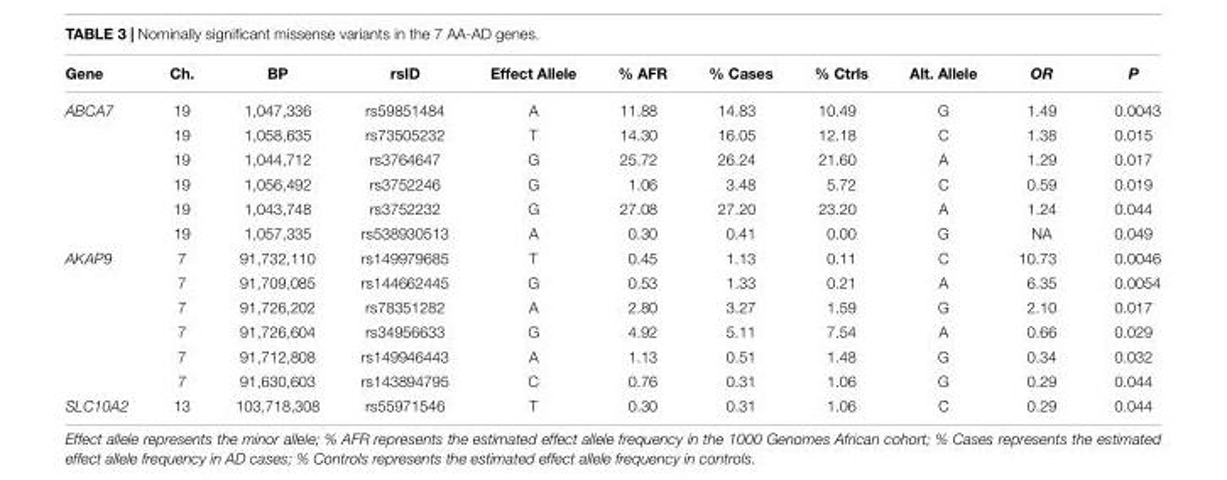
<table><thead><tr><td>Gene</td><td>Ch.</td><td>BP</td><td>rsID</td><td>Effect Allele</td><td>% AFR</td><td>% Cases</td><td>% Ctrls</td><td>Alt. Allele</td><td>OR</td><td>P</td></tr></thead><tbody><tr><td rowspan="6">ABCA7</td><td>19</td><td>1,047,336</td><td>rs59851484</td><td>A</td><td>11.88</td><td>14.83</td><td>10.49</td><td>G</td><td>1.49</td><td>0.0043</td></tr><tr><td>19</td><td>1,058,635</td><td>rs73505232</td><td>T</td><td>14.30</td><td>16.05</td><td>12.18</td><td>C</td><td>1.38</td><td>0.015</td></tr><tr><td>19</td><td>1,044,712</td><td>rs3764647</td><td>G</td><td>25.72</td><td>26.24</td><td>21.60</td><td>A</td><td>1.29</td><td>0.017</td></tr><tr><td>19</td><td>1,056,492</td><td>rs3752246</td><td>G</td><td>1.06</td><td>3.48</td><td>5.72</td><td>C</td><td>0.59</td><td>0.019</td></tr><tr><td>19</td><td>1,043,748</td><td>rs3752232</td><td>G</td><td>27.08</td><td>27.20</td><td>23.20</td><td>A</td><td>1.24</td><td>0.044</td></tr><tr><td>19</td><td>1,057,335</td><td>rs538930513</td><td>A</td><td>0.30</td><td>0.41</td><td>0.00</td><td>G</td><td>NA</td><td>0.049</td></tr><tr><td rowspan="6">AKAP9</td><td>7</td><td>91,732,110</td><td>rs149979685</td><td>T</td><td>0.45</td><td>1.13</td><td>0.11</td><td>C</td><td>10.73</td><td>0.0046</td></tr><tr><td>7</td><td>91,709,085</td><td>rs144662445</td><td>G</td><td>0.53</td><td>1.33</td><td>0.21</td><td>A</td><td>6.35</td><td>0.0054</td></tr><tr><td>7</td><td>91,726,202</td><td>rs78351282</td><td>A</td><td>2.80</td><td>3.27</td><td>1.59</td><td>G</td><td>2.10</td><td>0.017</td></tr><tr><td>7</td><td>91,726,604</td><td>rs34956633</td><td>G</td><td>4.92</td><td>5.11</td><td>7.54</td><td>A</td><td>0.66</td><td>0.029</td></tr><tr><td>7</td><td>91,712,808</td><td>rs149946443</td><td>A</td><td>1.13</td><td>0.51</td><td>1.48</td><td>G</td><td>0.34</td><td>0.032</td></tr><tr><td>7</td><td>91,630,603</td><td>rs143894795</td><td>C</td><td>0.76</td><td>0.31</td><td>1.06</td><td>G</td><td>0.29</td><td>0.044</td></tr><tr><td>SLC10A2</td><td>13</td><td>103,718,308</td><td>rs55971546</td><td>T</td><td>0.30</td><td>0.31</td><td>1.06</td><td>C</td><td>0.29</td><td>0.044</td></tr></tbody></table>